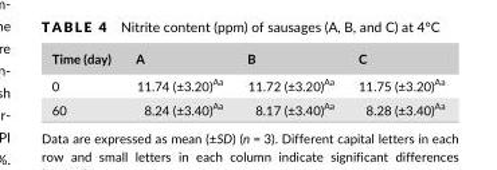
<table><thead><tr><td>Time (day)</td><td>A</td><td>B</td><td>C</td></tr></thead><tbody><tr><td>0</td><td>11.74 (±3.20)<sup>Aa</sup></td><td>11.72 (±3.20)<sup>Aa</sup></td><td>11.75 (±3.20)<sup>Aa</sup></td></tr><tr><td>60</td><td>8.24 (±3.40)<sup>Aa</sup></td><td>8.17 (±3.40)<sup>Aa</sup></td><td>8.28 (±3.40)<sup>Aa</sup></td></tr></tbody></table>